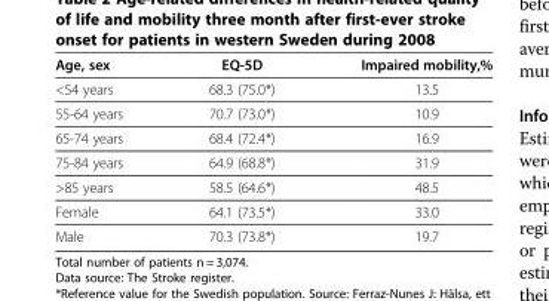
<table><thead><tr><td>Age, sex</td><td>EQ-5D</td><td>Impaired mobility,%</td></tr></thead><tbody><tr><td>&lt;54 years</td><td>68.3 (75.0*)</td><td>13.5</td></tr><tr><td>55-64 years</td><td>70.7 (73.0*)</td><td>10.9</td></tr><tr><td>65-74 years</td><td>68.4 (72.4*)</td><td>16.9</td></tr><tr><td>75-84 years</td><td>64.9 (68.8*)</td><td>31.9</td></tr><tr><td>&gt;85 years</td><td>58.5 (64.6*)</td><td>48.5</td></tr><tr><td>Female</td><td>64.1 (73.5*)</td><td>33.0</td></tr><tr><td>Male</td><td>70.3 (73.8*)</td><td>19.7</td></tr></tbody></table>